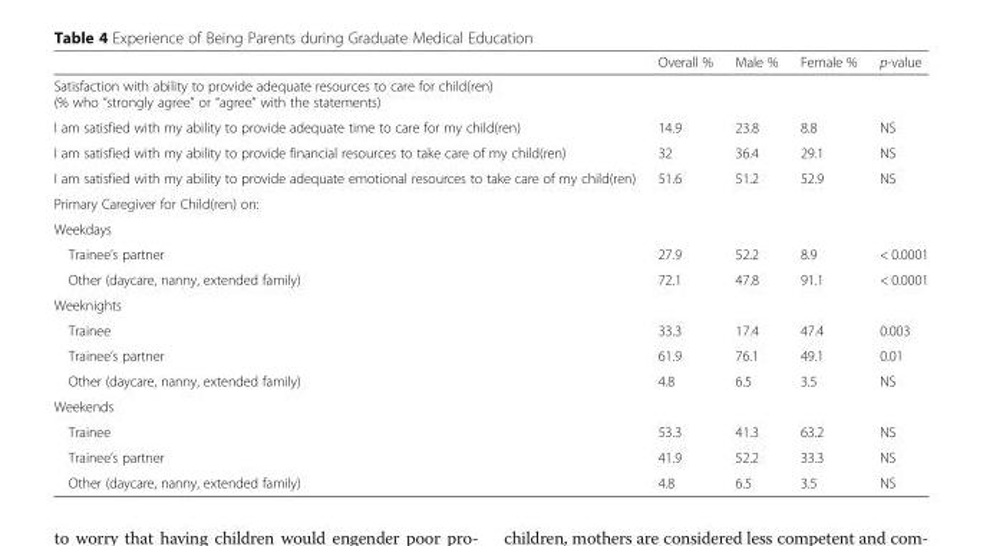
<table><thead><tr><td></td><td>Overall %</td><td>Male %</td><td>Female %</td><td>p-value</td></tr></thead><tbody><tr><td colspan="5">Satisfaction with ability to provide adequate resources to care for child(ren) (% who “strongly agree” or “agree” with the statements)</td></tr><tr><td>I am satisfied with my ability to provide adequate time to care for my child(ren)</td><td>14.9</td><td>23.8</td><td>8.8</td><td>NS</td></tr><tr><td>I am satisfied with my ability to provide financial resources to take care of my child(ren)</td><td>32</td><td>36.4</td><td>29.1</td><td>NS</td></tr><tr><td>I am satisfied with my ability to provide adequate emotional resources to take care of my child(ren)</td><td>51.6</td><td>51.2</td><td>52.9</td><td>NS</td></tr><tr><td colspan="5">Primary Caregiver for Child(ren) on:</td></tr><tr><td colspan="5">Weekdays</td></tr><tr><td>Trainee’s partner</td><td>27.9</td><td>52.2</td><td>8.9</td><td>&lt; 0.0001</td></tr><tr><td>Other (daycare, nanny, extended family)</td><td>72.1</td><td>47.8</td><td>91.1</td><td>&lt; 0.0001</td></tr><tr><td colspan="5">Weeknights</td></tr><tr><td>Trainee</td><td>33.3</td><td>17.4</td><td>47.4</td><td>0.003</td></tr><tr><td>Trainee’s partner</td><td>61.9</td><td>76.1</td><td>49.1</td><td>0.01</td></tr><tr><td>Other (daycare, nanny, extended family)</td><td>4.8</td><td>6.5</td><td>3.5</td><td>NS</td></tr><tr><td colspan="5">Weekends</td></tr><tr><td>Trainee</td><td>53.3</td><td>41.3</td><td>63.2</td><td>NS</td></tr><tr><td>Trainee’s partner</td><td>41.9</td><td>52.2</td><td>33.3</td><td>NS</td></tr><tr><td>Other (daycare, nanny, extended family)</td><td>4.8</td><td>6.5</td><td>3.5</td><td>NS</td></tr></tbody></table>